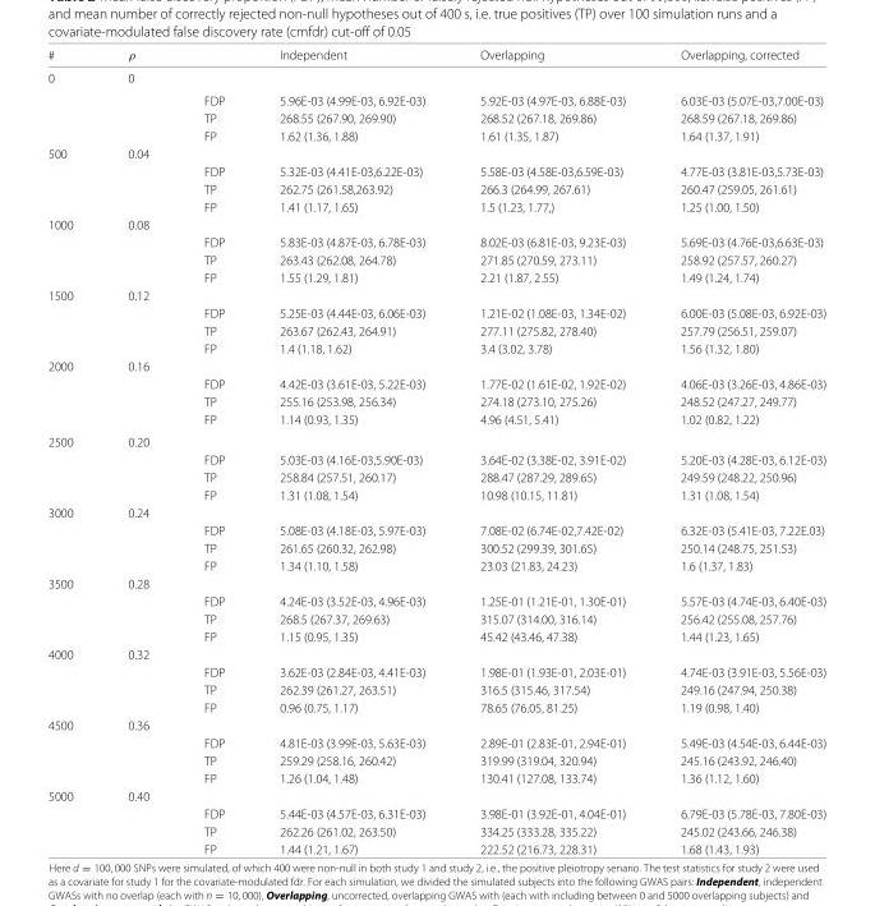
<table><thead><tr><td>#</td><td>ρ</td><td></td><td>Independent</td><td>Overlapping</td><td>Overlapping, corrected</td></tr></thead><tbody><tr><td rowspan="4">0</td><td>0</td><td></td><td></td><td></td><td></td></tr><tr><td></td><td>FDP</td><td>5.96E-03 (4.99E-03, 6.92E-03)</td><td>5.92E-03 (4.97E-03, 6.88E-03)</td><td>6.03E-03 (5.07E-03,7.00E-03)</td></tr><tr><td></td><td>TP</td><td>268.55 (267.90, 269.90)</td><td>268.52 (267.18, 269.86)</td><td>268.59 (267.18, 269.86)</td></tr><tr><td></td><td>FP</td><td>1.62 (1.36, 1.88)</td><td>1.61 (1.35, 1.87)</td><td>1.64 (1.37, 1.91)</td></tr><tr><td rowspan="4">500</td><td>0.04</td><td></td><td></td><td></td><td></td></tr><tr><td></td><td>FDP</td><td>5.32E-03 (4.41E-03,6.22E-03)</td><td>5.58E-03 (4.58E-03,6.59E-03)</td><td>4.77E-03 (3.81E-03,5.73E-03)</td></tr><tr><td></td><td>TP</td><td>262.75 (261.58,263.92)</td><td>266.3 (264.99, 267.61)</td><td>260.47 (259.05, 261.61)</td></tr><tr><td></td><td>FP</td><td>1.41 (1.17, 1.65)</td><td>1.5 (1.23, 1.77,)</td><td>1.25 (1.00, 1.50)</td></tr><tr><td rowspan="4">1000</td><td>0.08</td><td></td><td></td><td></td><td></td></tr><tr><td></td><td>FDP</td><td>5.83E-03 (4.87E-03, 6.78E-03)</td><td>8.02E-03 (6.81E-03, 9.23E-03)</td><td>5.69E-03 (4.76E-03,6.63E-03)</td></tr><tr><td></td><td>TP</td><td>263.43 (262.08, 264.78)</td><td>271.85 (270.59, 273.11)</td><td>258.92 (257.57, 260.27)</td></tr><tr><td></td><td>FP</td><td>1.55 (1.29, 1.81)</td><td>2.21 (1.87, 2.55)</td><td>1.49 (1.24, 1.74)</td></tr><tr><td rowspan="4">1500</td><td>0.12</td><td></td><td></td><td></td><td></td></tr><tr><td></td><td>FDP</td><td>5.25E-03 (4.44E-03, 6.06E-03)</td><td>1.21E-02 (1.08E-03, 1.34E-02)</td><td>6.00E-03 (5.08E-03, 6.92E-03)</td></tr><tr><td></td><td>TP</td><td>263.67 (262.43, 264.91)</td><td>277.11 (275.82, 278.40)</td><td>257.79 (256.51, 259.07)</td></tr><tr><td></td><td>FP</td><td>1.4 (1.18, 1.62)</td><td>3.4 (3.02, 3.78)</td><td>1.56 (1.32, 1.80)</td></tr><tr><td rowspan="4">2000</td><td>0.16</td><td></td><td></td><td></td><td></td></tr><tr><td></td><td>FDP</td><td>4.42E-03 (3.61E-03, 5.22E-03)</td><td>1.77E-02 (1.61E-02, 1.92E-02)</td><td>4.06E-03 (3.26E-03, 4.86E-03)</td></tr><tr><td></td><td>TP</td><td>255.16 (253.98, 256.34)</td><td>274.18 (273.10, 275.26)</td><td>248.52 (247.27, 249.77)</td></tr><tr><td></td><td>FP</td><td>1.14 (0.93, 1.35)</td><td>4.96 (4.51, 5.41)</td><td>1.02 (0.82, 1.22)</td></tr><tr><td rowspan="4">2500</td><td>0.20</td><td></td><td></td><td></td><td></td></tr><tr><td></td><td>FDP</td><td>5.03E-03 (4.16E-03,5.90E-03)</td><td>3.64E-02 (3.38E-02, 3.91E-02)</td><td>5.20E-03 (4.28E-03, 6.12E-03)</td></tr><tr><td></td><td>TP</td><td>258.84 (257.51, 260.17)</td><td>288.47 (287.29, 289.65)</td><td>249.59 (248.22, 250.96)</td></tr><tr><td></td><td>FP</td><td>1.31 (1.08, 1.54)</td><td>10.98 (10.15, 11.81)</td><td>1.31 (1.08, 1.54)</td></tr><tr><td rowspan="4">3000</td><td>0.24</td><td></td><td></td><td></td><td></td></tr><tr><td></td><td>FDP</td><td>5.08E-03 (4.18E-03, 5.97E-03)</td><td>7.08E-02 (6.74E-02,7.42E-02)</td><td>6.32E-03 (5.41E-03, 7.22E.03)</td></tr><tr><td></td><td>TP</td><td>261.65 (260.32, 262.98)</td><td>300.52 (299.39, 301.65)</td><td>250.14 (248.75, 251.53)</td></tr><tr><td></td><td>FP</td><td>1.34 (1.10, 1.58)</td><td>23.03 (21.83, 24.23)</td><td>1.6 (1.37, 1.83)</td></tr><tr><td rowspan="4">3500</td><td>0.28</td><td></td><td></td><td></td><td></td></tr><tr><td></td><td>FDP</td><td>4.24E-03 (3.52E-03, 4.96E-03)</td><td>1.25E-01 (1.21E-01, 1.30E-01)</td><td>5.57E-03 (4.74E-03, 6.40E-03)</td></tr><tr><td></td><td>TP</td><td>268.5 (267.37, 269.63)</td><td>315.07 (314.00, 316.14)</td><td>256.42 (255.08, 257.76)</td></tr><tr><td></td><td>FP</td><td>1.15 (0.95, 1.35)</td><td>45.42 (43.46, 47.38)</td><td>1.44 (1.23, 1.65)</td></tr><tr><td rowspan="4">4000</td><td>0.32</td><td></td><td></td><td></td><td></td></tr><tr><td></td><td>FDP</td><td>3.62E-03 (2.84E-03, 4.41E-03)</td><td>1.98E-01 (1.93E-01, 2.03E-01)</td><td>4.74E-03 (3.91E-03, 5.56E-03)</td></tr><tr><td></td><td>TP</td><td>262.39 (261.27, 263.51)</td><td>316.5 (315.46, 317.54)</td><td>249.16 (247.94, 250.38)</td></tr><tr><td></td><td>FP</td><td>0.96 (0.75, 1.17)</td><td>78.65 (76.05, 81.25)</td><td>1.19 (0.98, 1.40)</td></tr><tr><td rowspan="4">4500</td><td>0.36</td><td></td><td></td><td></td><td></td></tr><tr><td></td><td>FDP</td><td>4.81E-03 (3.99E-03, 5.63E-03)</td><td>2.89E-01 (2.83E-01, 2.94E-01)</td><td>5.49E-03 (4.54E-03, 6.44E-03)</td></tr><tr><td></td><td>TP</td><td>259.29 (258.16, 260.42)</td><td>319.99 (319.04, 320.94)</td><td>245.16 (243.92, 246.40)</td></tr><tr><td></td><td>FP</td><td>1.26 (1.04, 1.48)</td><td>130.41 (127.08, 133.74)</td><td>1.36 (1.12, 1.60)</td></tr><tr><td rowspan="4">5000</td><td>0.40</td><td></td><td></td><td></td><td></td></tr><tr><td></td><td>FDP</td><td>5.44E-03 (4.57E-03, 6.31E-03)</td><td>3.98E-01 (3.92E-01, 4.04E-01)</td><td>6.79E-03 (5.78E-03, 7.80E-03)</td></tr><tr><td></td><td>TP</td><td>262.26 (261.02, 263.50)</td><td>334.25 (333.28, 335.22)</td><td>245.02 (243.66, 246.38)</td></tr><tr><td></td><td>FP</td><td>1.44 (1.21, 1.67)</td><td>222.52 (216.73, 228.31)</td><td>1.68 (1.43, 1.93)</td></tr></tbody></table>